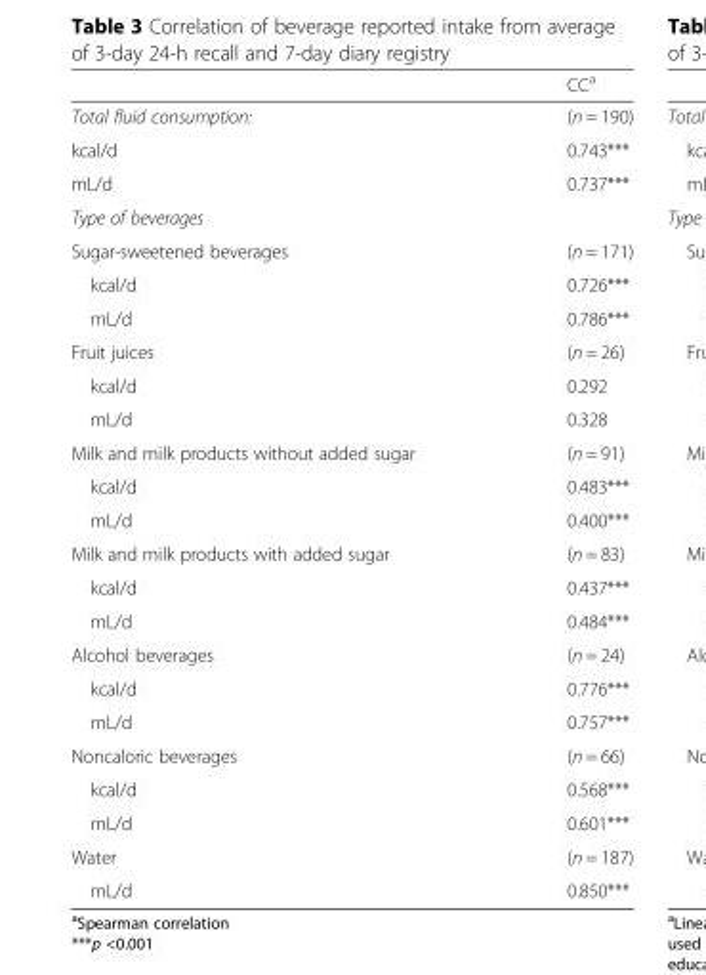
<table><thead><tr><td></td><td>CC<sup>a</sup></td></tr></thead><tbody><tr><td>Total fluid consumption:</td><td>(n = 190)</td></tr><tr><td>kcal/d</td><td>0.743***</td></tr><tr><td>mL/d</td><td>0.737***</td></tr><tr><td colspan="2">Type of beverages</td></tr><tr><td>Sugar-sweetened beverages</td><td>(n = 171)</td></tr><tr><td>kcal/d</td><td>0.726***</td></tr><tr><td>mL/d</td><td>0.786***</td></tr><tr><td>Fruit juices</td><td>(n = 26)</td></tr><tr><td>kcal/d</td><td>0.292</td></tr><tr><td>mL/d</td><td>0.328</td></tr><tr><td>Milk and milk products without added sugar</td><td>(n = 91)</td></tr><tr><td>kcal/d</td><td>0.483***</td></tr><tr><td>mL/d</td><td>0.400***</td></tr><tr><td>Milk and milk products with added sugar</td><td>(n = 83)</td></tr><tr><td>kcal/d</td><td>0.437***</td></tr><tr><td>mL/d</td><td>0.484***</td></tr><tr><td>Alcohol beverages</td><td>(n = 24)</td></tr><tr><td>kcal/d</td><td>0.776***</td></tr><tr><td>mL/d</td><td>0.757***</td></tr><tr><td>Noncaloric beverages</td><td>(n = 66)</td></tr><tr><td>kcal/d</td><td>0.568***</td></tr><tr><td>mL/d</td><td>0.601***</td></tr><tr><td>Water</td><td>(n = 187)</td></tr><tr><td>mL/d</td><td>0.850***</td></tr></tbody></table>